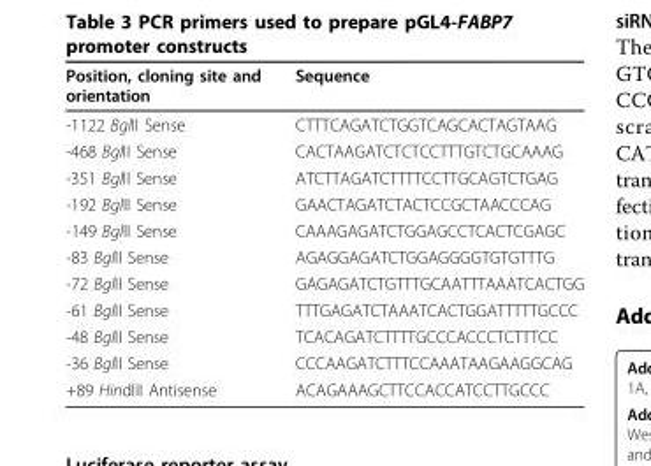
<table><thead><tr><td>Position, cloning site and orientation</td><td>Sequence</td></tr></thead><tbody><tr><td>-1122 BglII Sense</td><td>CTTTCAGATCTGGTCAGCACTAGTAAG</td></tr><tr><td>-468 BglII Sense</td><td>CACTAAGATCTCTCCTTTGTCTGCAAAG</td></tr><tr><td>-351 BglII Sense</td><td>ATCTTAGATCTTTTCCTTGCAGTCTGAG</td></tr><tr><td>-192 BglII Sense</td><td>GAACTAGATCTACTCCGCTAACCCAG</td></tr><tr><td>-149 BglII Sense</td><td>CAAAGAGATCTGGAGCCTCACTCGAGC</td></tr><tr><td>-83 BglII Sense</td><td>AGAGGAGATCTGGAGGGGTGTGTTTG</td></tr><tr><td>-72 BglII Sense</td><td>GAGAGATCTGTTTGCAATTTAAATCACTGG</td></tr><tr><td>-61 BglII Sense</td><td>TTTGAGATCTAAATCACTGGATTTTTGCCC</td></tr><tr><td>-48 BglII Sense</td><td>TCACAGATCTTTTGCCCACCCTCTTTCC</td></tr><tr><td>-36 BglII Sense</td><td>CCCAAGATCTTTCCAAATAAGAAGGCAG</td></tr><tr><td>+89 HindIII Antisense</td><td>ACAGAAAGCTTCCACCATCCTTGCCC</td></tr></tbody></table>